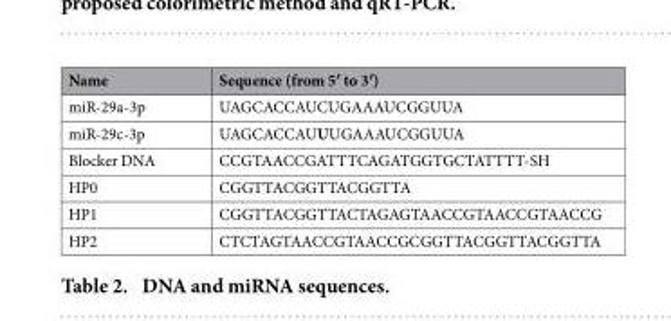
<table><thead><tr><td>Name</td><td>Sequence (from 5′ to 3′)</td></tr></thead><tbody><tr><td>miR-29a-3p</td><td>UAGCACCAUCUGAAAUCGGUUA</td></tr><tr><td>miR-29c-3p</td><td>UAGCACCAUUUGAAAUCGGUUA</td></tr><tr><td>Blocker DNA</td><td>CCGTAACCGATTTCAGATGGTGCTATTTT-SH</td></tr><tr><td>HP0</td><td>CGGTTACGGTTACGGTTA</td></tr><tr><td>HP1</td><td>CGGTTACGGTTACTAGAGTAACCGTAACCGTAACCG</td></tr><tr><td>HP2</td><td>CTCTAGTAACCGTAACCGCGGTTACGGTTACGGTTA</td></tr></tbody></table>